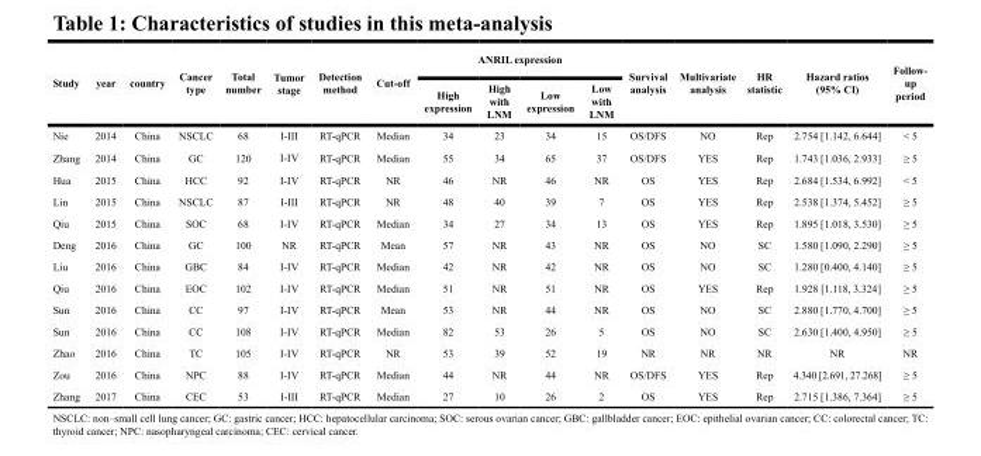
<table><thead><tr><td rowspan="2">Study</td><td rowspan="2">year</td><td rowspan="2">country</td><td rowspan="2">Cancer type</td><td rowspan="2">Total number</td><td rowspan="2">Tumor stage</td><td rowspan="2">Detection method</td><td rowspan="2">Cut-off</td><td colspan="4">ANRIL expression</td><td rowspan="2">Survival analysis</td><td rowspan="2">Multivariate analysis</td><td rowspan="2">HR statistic</td><td rowspan="2">Hazard ratios (95% CI)</td><td rowspan="2">Follow- up period</td></tr><tr><td>High expression</td><td>High with LNM</td><td>Low expression</td><td>Low with LNM</td></tr></thead><tbody><tr><td>Nie</td><td>2014</td><td>China</td><td>NSCLC</td><td>68</td><td>I-III</td><td>RT-qPCR</td><td>Median</td><td>34</td><td>23</td><td>34</td><td>15</td><td>OS/DFS</td><td>NO</td><td>Rep</td><td>2.754 [1.142, 6.644]</td><td>&lt; 5</td></tr><tr><td>Zhang</td><td>2014</td><td>China</td><td>GC</td><td>120</td><td>I-IV</td><td>RT-qPCR</td><td>Median</td><td>55</td><td>34</td><td>65</td><td>37</td><td>OS/DFS</td><td>YES</td><td>Rep</td><td>1.743 [1.036, 2.933]</td><td>≥ 5</td></tr><tr><td>Hua</td><td>2015</td><td>China</td><td>HCC</td><td>92</td><td>I-IV</td><td>RT-qPCR</td><td>NR</td><td>46</td><td>NR</td><td>46</td><td>NR</td><td>OS</td><td>YES</td><td>Rep</td><td>2.684 [1.534, 6.992]</td><td>&lt; 5</td></tr><tr><td>Lin</td><td>2015</td><td>China</td><td>NSCLC</td><td>87</td><td>I-III</td><td>RT-qPCR</td><td>NR</td><td>48</td><td>40</td><td>39</td><td>7</td><td>OS</td><td>YES</td><td>Rep</td><td>2.538 [1.374, 5.452]</td><td>≥ 5</td></tr><tr><td>Qiu</td><td>2015</td><td>China</td><td>SOC</td><td>68</td><td>I-IV</td><td>RT-qPCR</td><td>Median</td><td>34</td><td>27</td><td>34</td><td>13</td><td>OS</td><td>YES</td><td>Rep</td><td>1.895 [1.018, 3.530]</td><td>≥ 5</td></tr><tr><td>Deng</td><td>2016</td><td>China</td><td>GC</td><td>100</td><td>NR</td><td>RT-qPCR</td><td>Mean</td><td>57</td><td>NR</td><td>43</td><td>NR</td><td>OS</td><td>NO</td><td>SC</td><td>1.580 [1.090, 2.290]</td><td>≥ 5</td></tr><tr><td>Liu</td><td>2016</td><td>China</td><td>GBC</td><td>84</td><td>I-IV</td><td>RT-qPCR</td><td>Median</td><td>42</td><td>NR</td><td>42</td><td>NR</td><td>OS</td><td>NO</td><td>SC</td><td>1.280 [0.400, 4.140]</td><td>≥ 5</td></tr><tr><td>Qiu</td><td>2016</td><td>China</td><td>EOC</td><td>102</td><td>I-IV</td><td>RT-qPCR</td><td>Median</td><td>51</td><td>NR</td><td>51</td><td>NR</td><td>OS</td><td>YES</td><td>Rep</td><td>1.928 [1.118, 3.324]</td><td>≥ 5</td></tr><tr><td>Sun</td><td>2016</td><td>China</td><td>CC</td><td>97</td><td>I-IV</td><td>RT-qPCR</td><td>Mean</td><td>53</td><td>NR</td><td>44</td><td>NR</td><td>OS</td><td>NO</td><td>SC</td><td>2.880 [1.770, 4.700]</td><td>≥ 5</td></tr><tr><td>Sun</td><td>2016</td><td>China</td><td>CC</td><td>108</td><td>I-IV</td><td>RT-qPCR</td><td>Median</td><td>82</td><td>53</td><td>26</td><td>5</td><td>OS</td><td>NO</td><td>SC</td><td>2.630 [1.400, 4.950]</td><td>≥ 5</td></tr><tr><td>Zhao</td><td>2016</td><td>China</td><td>TC</td><td>105</td><td>I-IV</td><td>RT-qPCR</td><td>NR</td><td>53</td><td>39</td><td>52</td><td>19</td><td>NR</td><td>NR</td><td>NR</td><td>NR</td><td>NR</td></tr><tr><td>Zou</td><td>2016</td><td>China</td><td>NPC</td><td>88</td><td>I-IV</td><td>RT-qPCR</td><td>Median</td><td>44</td><td>NR</td><td>44</td><td>NR</td><td>OS/DFS</td><td>YES</td><td>Rep</td><td>4.340 [2.691, 27.268]</td><td>≥ 5</td></tr><tr><td>Zhang</td><td>2017</td><td>China</td><td>CEC</td><td>53</td><td>I-III</td><td>RT-qPCR</td><td>Median</td><td>27</td><td>10</td><td>26</td><td>2</td><td>OS</td><td>YES</td><td>Rep</td><td>2.715 [1.386, 7.364]</td><td>≥ 5</td></tr></tbody></table>